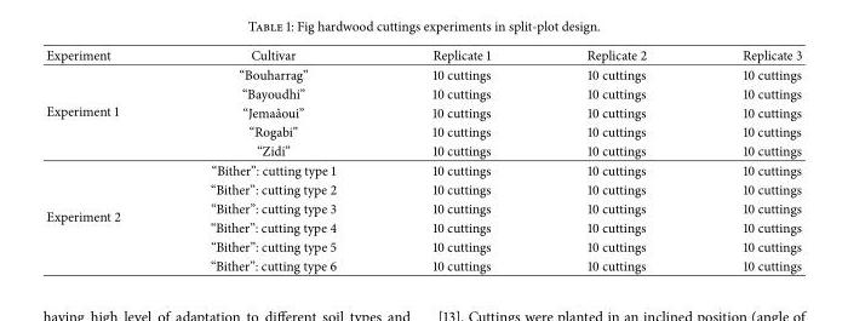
<table><thead><tr><td>Experiment</td><td>Cultivar</td><td>Replicate 1</td><td>Replicate 2</td><td>Replicate 3</td></tr></thead><tbody><tr><td rowspan="5">Experiment 1</td><td>“Bouharrag”</td><td>10 cuttings</td><td>10 cuttings</td><td>10 cuttings</td></tr><tr><td>“Bayoudhi”</td><td>10 cuttings</td><td>10 cuttings</td><td>10 cuttings</td></tr><tr><td>“Jemaˆaoui”</td><td>10 cuttings</td><td>10 cuttings</td><td>10 cuttings</td></tr><tr><td>“Rogabi”</td><td>10 cuttings</td><td>10 cuttings</td><td>10 cuttings</td></tr><tr><td>“Zidi”</td><td>10 cuttings</td><td>10 cuttings</td><td>10 cuttings</td></tr><tr><td rowspan="6">Experiment 2</td><td>“Bither”: cutting type 1</td><td>10 cuttings</td><td>10 cuttings</td><td>10 cuttings</td></tr><tr><td>“Bither”: cutting type 2</td><td>10 cuttings</td><td>10 cuttings</td><td>10 cuttings</td></tr><tr><td>“Bither”: cutting type 3</td><td>10 cuttings</td><td>10 cuttings</td><td>10 cuttings</td></tr><tr><td>“Bither”: cutting type 4</td><td>10 cuttings</td><td>10 cuttings</td><td>10 cuttings</td></tr><tr><td>“Bither”: cutting type 5</td><td>10 cuttings</td><td>10 cuttings</td><td>10 cuttings</td></tr><tr><td>“Bither”: cutting type 6</td><td>10 cuttings</td><td>10 cuttings</td><td>10 cuttings</td></tr></tbody></table>